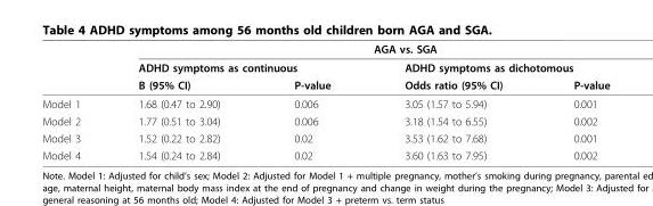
<table><thead><tr><td rowspan="3"></td><td colspan="4">AGA vs. SGA</td></tr><tr><td colspan="2">ADHD symptoms as continuous</td><td colspan="2">ADHD symptoms as dichotomous</td></tr><tr><td>B (95% CI)</td><td>P-value</td><td>Odds ratio (95% CI)</td><td>P-value</td></tr></thead><tbody><tr><td>Model 1</td><td>1.68 (0.47 to 2.90)</td><td>0.006</td><td>3.05 (1.57 to 5.94)</td><td>0.001</td></tr><tr><td>Model 2</td><td>1.77 (0.51 to 3.04)</td><td>0.006</td><td>3.18 (1.54 to 6.55)</td><td>0.002</td></tr><tr><td>Model 3</td><td>1.52 (0.22 to 2.82)</td><td>0.02</td><td>3.53 (1.62 to 7.68)</td><td>0.001</td></tr><tr><td>Model 4</td><td>1.54 (0.24 to 2.84)</td><td>0.02</td><td>3.60 (1.63 to 7.95)</td><td>0.002</td></tr></tbody></table>